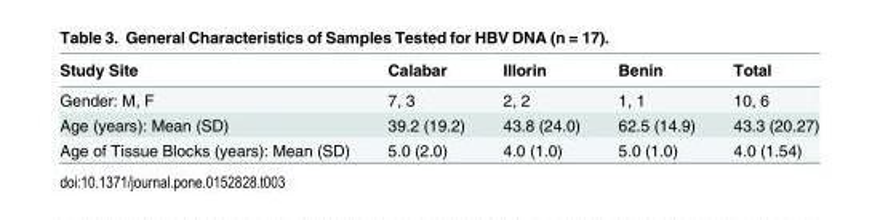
<table><thead><tr><td>Study Site</td><td>Calabar</td><td>Illorin</td><td>Benin</td><td>Total</td></tr></thead><tbody><tr><td>Gender: M, F</td><td>7, 3</td><td>2, 2</td><td>1, 1</td><td>10, 6</td></tr><tr><td>Age (years): Mean (SD)</td><td>39.2 (19.2)</td><td>43.8 (24.0)</td><td>62.5 (14.9)</td><td>43.3 (20.27)</td></tr><tr><td>Age of Tissue Blocks (years): Mean (SD)</td><td>5.0 (2.0)</td><td>4.0 (1.0)</td><td>5.0 (1.0)</td><td>4.0 (1.54)</td></tr></tbody></table>